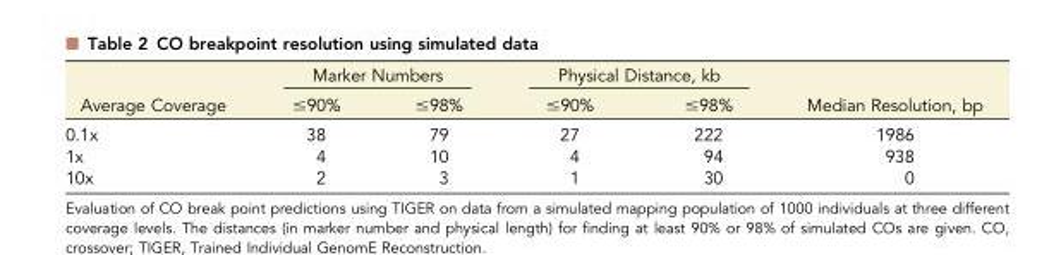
<table><thead><tr><td rowspan="2">Average Coverage</td><td colspan="2">Marker Numbers</td><td colspan="2">Physical Distance, kb</td><td rowspan="2">Median Resolution, bp</td></tr><tr><td>≤90%</td><td>≤98%</td><td>≤90%</td><td>≤98%</td></tr></thead><tbody><tr><td>0.1x</td><td>38</td><td>79</td><td>27</td><td>222</td><td>1986</td></tr><tr><td>1x</td><td>4</td><td>10</td><td>4</td><td>94</td><td>938</td></tr><tr><td>10x</td><td>2</td><td>3</td><td>1</td><td>30</td><td>0</td></tr></tbody></table>